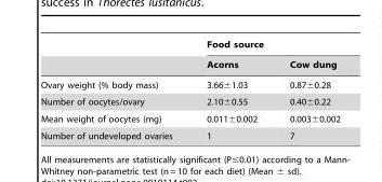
<table><thead><tr><td rowspan="2"></td><td colspan="2">Food source</td></tr><tr><td>Acorns</td><td>Cow dung</td></tr></thead><tbody><tr><td>Ovary weight (% body mass)</td><td>3.66±1.03</td><td>0.87±0.28</td></tr><tr><td>Number of oocytes/ovary</td><td>2.10±0.55</td><td>0.40±0.22</td></tr><tr><td>Mean weight of oocytes (mg)</td><td>0.011±0.002</td><td>0.003±0.002</td></tr><tr><td>Number of undeveloped ovaries</td><td>1</td><td>7</td></tr></tbody></table>